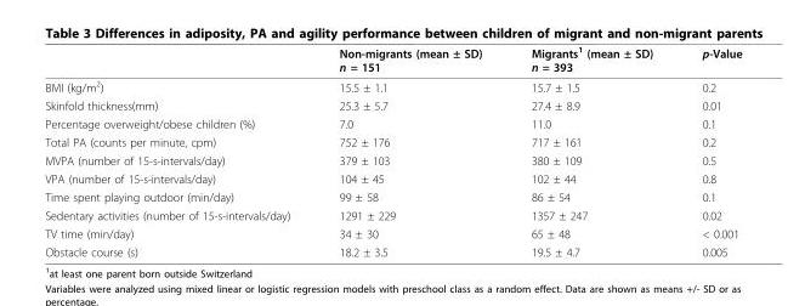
<table><thead><tr><td></td><td>Non-migrants (mean ± SD) n = 151</td><td>Migrants<sup>1</sup> (mean ± SD) n = 393</td><td>p-Value</td></tr></thead><tbody><tr><td>BMI (kg/m<sup>2</sup>)</td><td>15.5 ± 1.1</td><td>15.7 ± 1.5</td><td>0.2</td></tr><tr><td>Skinfold thickness(mm)</td><td>25.3 ± 5.7</td><td>27.4 ± 8.9</td><td>0.01</td></tr><tr><td>Percentage overweight/obese children (%)</td><td>7.0</td><td>11.0</td><td>0.1</td></tr><tr><td>Total PA (counts per minute, cpm)</td><td>752 ± 176</td><td>717 ± 161</td><td>0.2</td></tr><tr><td>MVPA (number of 15-s-intervals/day)</td><td>379 ± 103</td><td>380 ± 109</td><td>0.5</td></tr><tr><td>VPA (number of 15-s-intervals/day)</td><td>104 ± 45</td><td>102 ± 44</td><td>0.8</td></tr><tr><td>Time spent playing outdoor (min/day)</td><td>99 ± 58</td><td>86 ± 54</td><td>0.1</td></tr><tr><td>Sedentary activities (number of 15-s-intervals/day)</td><td>1291 ± 229</td><td>1357 ± 247</td><td>0.02</td></tr><tr><td>TV time (min/day)</td><td>34 ± 30</td><td>65 ± 48</td><td>&lt; 0.001</td></tr><tr><td>Obstacle course (s)</td><td>18.2 ± 3.5</td><td>19.5 ± 4.7</td><td>0.005</td></tr></tbody></table>